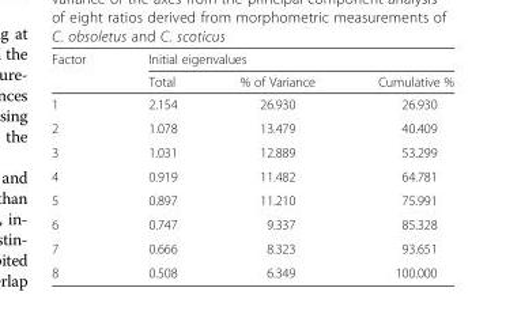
<table><thead><tr><td rowspan="2">Factor</td><td colspan="3">Initial eigenvalues</td></tr><tr><td>Total</td><td>% of Variance</td><td>Cumulative %</td></tr></thead><tbody><tr><td>1</td><td>2.154</td><td>26.930</td><td>26.930</td></tr><tr><td>2</td><td>1.078</td><td>13.479</td><td>40.409</td></tr><tr><td>3</td><td>1.031</td><td>12.889</td><td>53.299</td></tr><tr><td>4</td><td>0.919</td><td>11.482</td><td>64.781</td></tr><tr><td>5</td><td>0.897</td><td>11.210</td><td>75.991</td></tr><tr><td>6</td><td>0.747</td><td>9.337</td><td>85.328</td></tr><tr><td>7</td><td>0.666</td><td>8.323</td><td>93.651</td></tr><tr><td>8</td><td>0.508</td><td>6.349</td><td>100.000</td></tr></tbody></table>